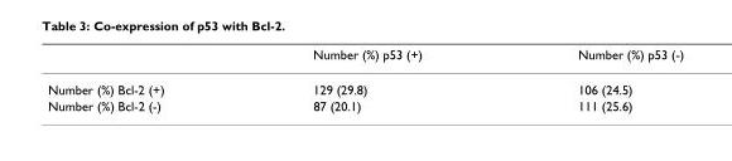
<table><thead><tr><td></td><td>Number (%) p53 (+)</td><td>Number (%) p53 (-)</td></tr></thead><tbody><tr><td>Number (%) Bcl-2 (+)</td><td>129 (29.8)</td><td>106 (24.5)</td></tr><tr><td>Number (%) Bcl-2 (-)</td><td>87 (20.1)</td><td>111 (25.6)</td></tr></tbody></table>